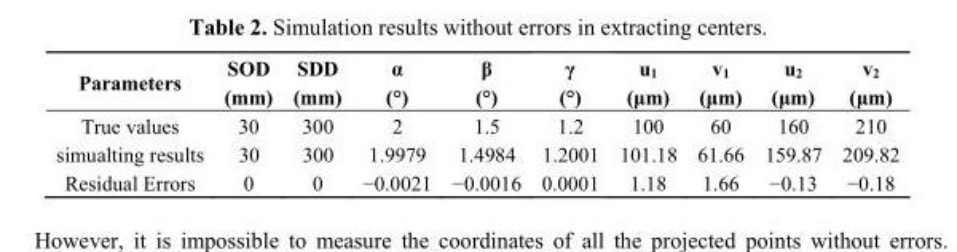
<table><thead><tr><td>Parameters</td><td>SOD (mm)</td><td>SDD (mm)</td><td>α (°)</td><td>β (°)</td><td>γ (°)</td><td>u<sub>1</sub> (μm)</td><td>v<sub>1</sub> (μm)</td><td>u<sub>2</sub> (μm)</td><td>v<sub>2</sub> (μm)</td></tr></thead><tbody><tr><td>True values</td><td>30</td><td>300</td><td>2</td><td>1.5</td><td>1.2</td><td>100</td><td>60</td><td>160</td><td>210</td></tr><tr><td>simualting results</td><td>30</td><td>300</td><td>1.9979</td><td>1.4984</td><td>1.2001</td><td>101.18</td><td>61.66</td><td>159.87</td><td>209.82</td></tr><tr><td>Residual Errors</td><td>0</td><td>0</td><td>−0.0021</td><td>−0.0016</td><td>0.0001</td><td>1.18</td><td>1.66</td><td>−0.13</td><td>−0.18</td></tr></tbody></table>